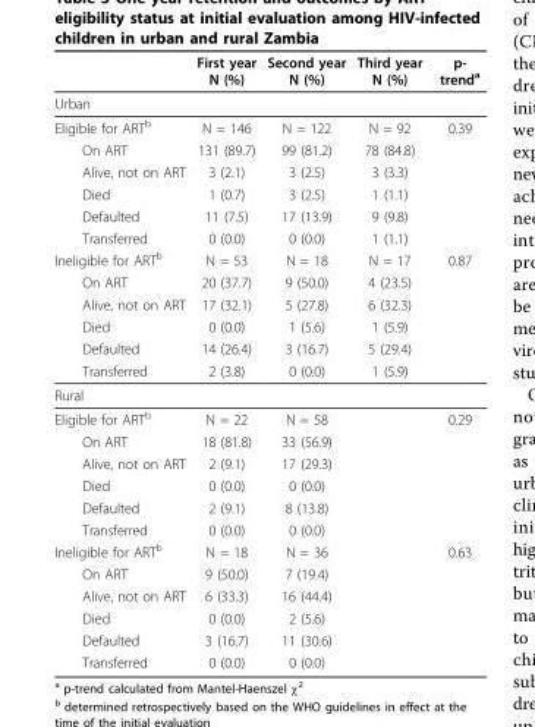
<table><thead><tr><td></td><td>First year N (%)</td><td>Second year N (%)</td><td>Third year N (%)</td><td>p- trend<sup>a</sup></td></tr></thead><tbody><tr><td colspan="5">Urban</td></tr><tr><td>Eligible for ART<sup>b</sup></td><td>N = 146</td><td>N = 122</td><td>N = 92</td><td>0.39</td></tr><tr><td>On ART</td><td>131 (89.7)</td><td>99 (81.2)</td><td>78 (84.8)</td><td></td></tr><tr><td>Alive, not on ART</td><td>3 (2.1)</td><td>3 (2.5)</td><td>3 (3.3)</td><td></td></tr><tr><td>Died</td><td>1 (0.7)</td><td>3 (2.5)</td><td>1 (1.1)</td><td></td></tr><tr><td>Defaulted</td><td>11 (7.5)</td><td>17 (13.9)</td><td>9 (9.8)</td><td></td></tr><tr><td>Transferred</td><td>0 (0.0)</td><td>0 (0.0)</td><td>1 (1.1)</td><td></td></tr><tr><td>Ineligible for ART<sup>b</sup></td><td>N = 53</td><td>N = 18</td><td>N = 17</td><td>0.87</td></tr><tr><td>On ART</td><td>20 (37.7)</td><td>9 (50.0)</td><td>4 (23.5)</td><td></td></tr><tr><td>Alive, not on ART</td><td>17 (32.1)</td><td>5 (27.8)</td><td>6 (32.3)</td><td></td></tr><tr><td>Died</td><td>0 (0.0)</td><td>1 (5.6)</td><td>1 (5.9)</td><td></td></tr><tr><td>Defaulted</td><td>14 (26.4)</td><td>3 (16.7)</td><td>5 (29.4)</td><td></td></tr><tr><td>Transferred</td><td>2 (3.8)</td><td>0 (0.0)</td><td>1 (5.9)</td><td></td></tr><tr><td colspan="5">Rural</td></tr><tr><td>Eligible for ART<sup>b</sup></td><td>N = 22</td><td>N = 58</td><td></td><td>0.29</td></tr><tr><td>On ART</td><td>18 (81.8)</td><td>33 (56.9)</td><td></td><td></td></tr><tr><td>Alive, not on ART</td><td>2 (9.1)</td><td>17 (29.3)</td><td></td><td></td></tr><tr><td>Died</td><td>0 (0.0)</td><td>0 (0.0)</td><td></td><td></td></tr><tr><td>Defaulted</td><td>2 (9.1)</td><td>8 (13.8)</td><td></td><td></td></tr><tr><td>Transferred</td><td>0 (0.0)</td><td>0 (0.0)</td><td></td><td></td></tr><tr><td>Ineligible for ART<sup>b</sup></td><td>N = 18</td><td>N = 36</td><td></td><td>0.63</td></tr><tr><td>On ART</td><td>9 (50.0)</td><td>7 (19.4)</td><td></td><td></td></tr><tr><td>Alive, not on ART</td><td>6 (33.3)</td><td>16 (44.4)</td><td></td><td></td></tr><tr><td>Died</td><td>0 (0.0)</td><td>2 (5.6)</td><td></td><td></td></tr><tr><td>Defaulted</td><td>3 (16.7)</td><td>11 (30.6)</td><td></td><td></td></tr><tr><td>Transferred</td><td>0 (0.0)</td><td>0 (0.0)</td><td></td><td></td></tr></tbody></table>